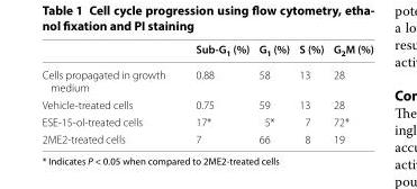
<table><thead><tr><td></td><td>Sub‑G<sub>1</sub> (%)</td><td>G<sub>1</sub> (%)</td><td>S (%)</td><td>G<sub>2</sub>M (%)</td></tr></thead><tbody><tr><td>Cells propagated in growth medium</td><td>0.88</td><td>58</td><td>13</td><td>28</td></tr><tr><td>Vehicle-treated cells</td><td>0.75</td><td>59</td><td>13</td><td>28</td></tr><tr><td>ESE-15-ol-treated cells</td><td>17*</td><td>5*</td><td>7</td><td>72*</td></tr><tr><td>2ME2-treated cells</td><td>7</td><td>66</td><td>8</td><td>19</td></tr></tbody></table>